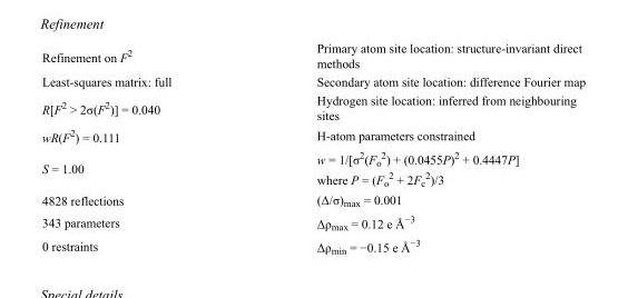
<table><tbody><tr><td>Refinement on F<sup>2</sup></td><td>Primary atom site location: structure-invariant direct methods</td></tr><tr><td>Least-squares matrix: full</td><td>Secondary atom site location: difference Fourier map</td></tr><tr><td>R[F<sup>2</sup> &gt; 2σ(F<sup>2</sup>)] = 0.040</td><td>Hydrogen site location: inferred from neighbouring sites</td></tr><tr><td>wR(F<sup>2</sup>) = 0.111</td><td>H-atom parameters constrained</td></tr><tr><td>S = 1.00</td><td>w = 1/[σ<sup>2</sup>(F<sub>o</sub> <sup>2</sup>) + (0.0455P)<sup>2</sup> + 0.4447P] where P = (F<sub>o</sub> <sup>2</sup> + 2F<sub>c</sub> <sup>2</sup>)/3</td></tr><tr><td>4828 reflections</td><td>(Δ/σ)<sub>max</sub> = 0.001</td></tr><tr><td>343 parameters</td><td>Δρ<sub>max</sub> = 0.12 e Å<sup>−3</sup></td></tr><tr><td>0 restraints</td><td>Δρ<sub>min</sub> = −0.15 e Å<sup>−3</sup></td></tr></tbody></table>